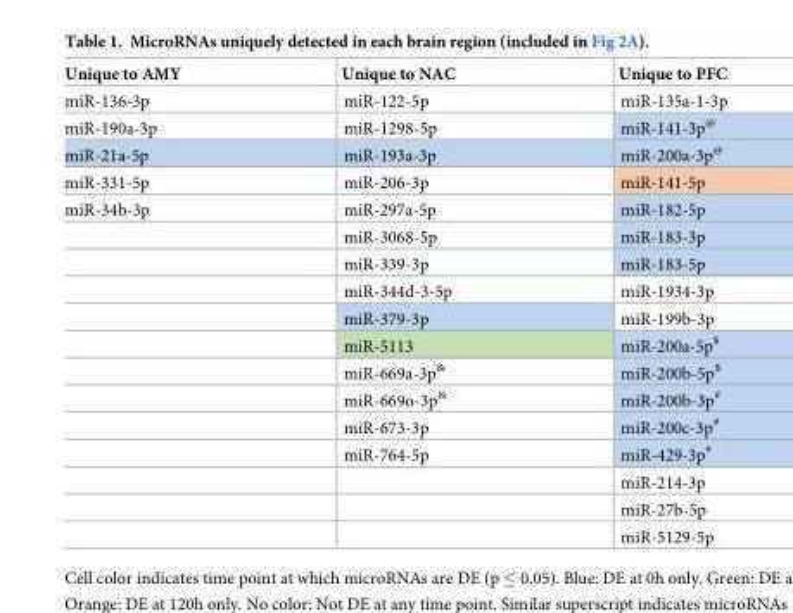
<table><thead><tr><td>Unique to AMY</td><td>Unique to NAC</td><td>Unique to PFC</td></tr></thead><tbody><tr><td>miR-136-3p</td><td>miR-122-5p</td><td>miR-135a-1-3p</td></tr><tr><td>miR-190a-3p</td><td>miR-1298-5p</td><td>miR-141-3p<sup>@</sup></td></tr><tr><td>miR-21a-5p</td><td>miR-193a-3p</td><td>miR-200a-3p<sup>@</sup></td></tr><tr><td>miR-331-5p</td><td>miR-206-3p</td><td>miR-141-5p</td></tr><tr><td rowspan="13">miR-34b-3p</td><td>miR-297a-5p</td><td>miR-182-5p</td></tr><tr><td>miR-3068-5p</td><td>miR-183-3p</td></tr><tr><td>miR-339-3p</td><td>miR-183-5p</td></tr><tr><td>miR-344d-3-5p</td><td>miR-1934-3p</td></tr><tr><td>miR-379-3p</td><td>miR-199b-3p</td></tr><tr><td>miR-5113</td><td>miR-200a-5p<sup>$</sup></td></tr><tr><td>miR-669a-3p<sup>&amp;</sup></td><td>miR-200b-5p<sup>$</sup></td></tr><tr><td>miR-669o-3p<sup>&amp;</sup></td><td>miR-200b-3p<sup>#</sup></td></tr><tr><td>miR-673-3p</td><td>miR-200c-3p<sup>#</sup></td></tr><tr><td>miR-764-5p</td><td>miR-429-3p<sup>#</sup></td></tr><tr><td></td><td>miR-214-3p</td></tr><tr><td></td><td>miR-27b-5p</td></tr><tr><td></td><td>miR-5129-5p</td></tr></tbody></table>